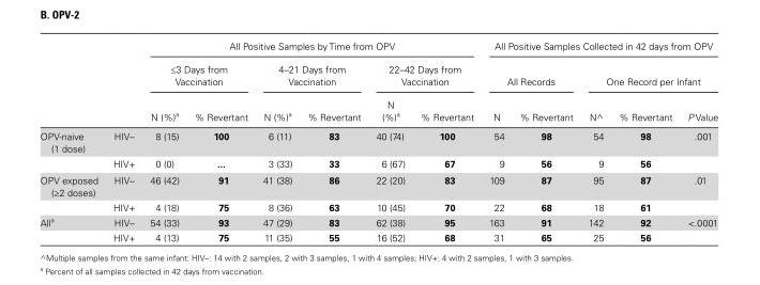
<table><thead><tr><td rowspan="3"></td><td rowspan="3"></td><td colspan="6">All Positive Samples by Time from OPV</td><td colspan="5">All Positive Samples Collected in 42 days from OPV</td></tr><tr><td colspan="2">≤3 Days from Vaccination</td><td colspan="2">4–21 Days from Vaccination</td><td colspan="2">22–42 Days from Vaccination</td><td colspan="2">All Records</td><td colspan="3">One Record per Infant</td></tr><tr><td>N (%)<sup>a</sup></td><td>% Revertant</td><td>N (%)<sup>a</sup></td><td>% Revertant</td><td>N (%)<sup>a</sup></td><td>% Revertant</td><td>N</td><td>% Revertant</td><td>N^</td><td>% Revertant</td><td>P Value</td></tr></thead><tbody><tr><td rowspan="2">OPV-naive (1 dose)</td><td>HIV–</td><td>8 (15)</td><td>100</td><td>6 (11)</td><td>83</td><td>40 (74)</td><td>100</td><td>54</td><td>98</td><td>54</td><td>98</td><td>.001</td></tr><tr><td>HIV+</td><td>0 (0)</td><td>...</td><td>3 (33)</td><td>33</td><td>6 (67)</td><td>67</td><td>9</td><td>56</td><td>9</td><td>56</td><td></td></tr><tr><td rowspan="2">OPV exposed (≥2 doses)</td><td>HIV–</td><td>46 (42)</td><td>91</td><td>41 (38)</td><td>86</td><td>22 (20)</td><td>83</td><td>109</td><td>87</td><td>95</td><td>87</td><td>.01</td></tr><tr><td>HIV+</td><td>4 (18)</td><td>75</td><td>8 (36)</td><td>63</td><td>10 (45)</td><td>70</td><td>22</td><td>68</td><td>18</td><td>61</td><td></td></tr><tr><td rowspan="2">All<sup>a</sup></td><td>HIV–</td><td>54 (33)</td><td>93</td><td>47 (29)</td><td>83</td><td>62 (38)</td><td>95</td><td>163</td><td>91</td><td>142</td><td>92</td><td>&lt;.0001</td></tr><tr><td>HIV+</td><td>4 (13)</td><td>75</td><td>11 (35)</td><td>55</td><td>16 (52)</td><td>68</td><td>31</td><td>65</td><td>25</td><td>56</td><td></td></tr></tbody></table>